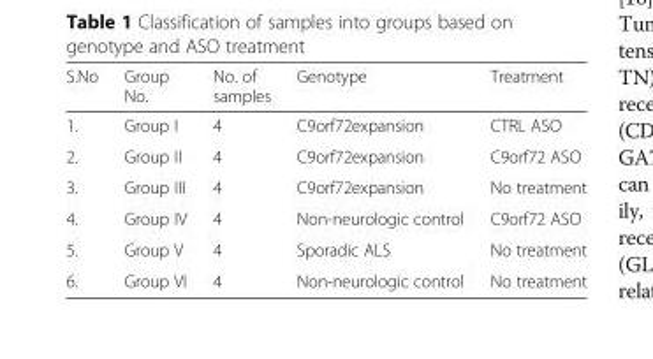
<table><thead><tr><td>S.No</td><td>Group No.</td><td>No. of samples</td><td>Genotype</td><td>Treatment</td></tr></thead><tbody><tr><td>1.</td><td>Group I</td><td>4</td><td>C9orf72expansion</td><td>CTRL ASO</td></tr><tr><td>2.</td><td>Group II</td><td>4</td><td>C9orf72expansion</td><td>C9orf72 ASO</td></tr><tr><td>3.</td><td>Group III</td><td>4</td><td>C9orf72expansion</td><td>No treatment</td></tr><tr><td>4.</td><td>Group IV</td><td>4</td><td>Non-neurologic control</td><td>C9orf72 ASO</td></tr><tr><td>5.</td><td>Group V</td><td>4</td><td>Sporadic ALS</td><td>No treatment</td></tr><tr><td>6.</td><td>Group VI</td><td>4</td><td>Non-neurologic control</td><td>No treatment</td></tr></tbody></table>